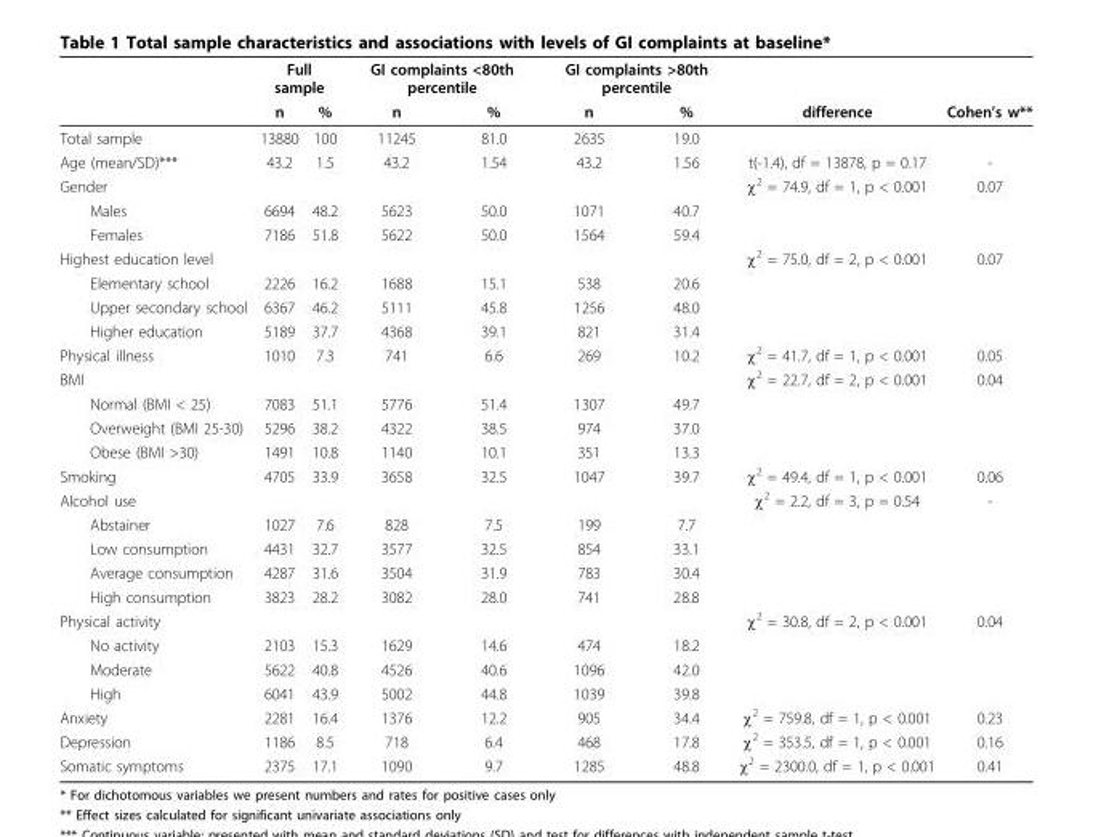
<table><thead><tr><td rowspan="2"></td><td colspan="2">Full sample</td><td colspan="2">GI complaints &lt;80th percentile</td><td colspan="2">GI complaints &gt;80th percentile</td><td rowspan="2">difference</td><td rowspan="2">Cohen’s w**</td></tr><tr><td>n</td><td>%</td><td>n</td><td>%</td><td>n</td><td>%</td></tr></thead><tbody><tr><td>Total sample</td><td>13880</td><td>100</td><td>11245</td><td>81.0</td><td>2635</td><td>19.0</td><td></td><td></td></tr><tr><td>Age (mean/SD)***</td><td>43.2</td><td>1.5</td><td>43.2</td><td>1.54</td><td>43.2</td><td>1.56</td><td>t(-1.4), df = 13878, p = 0.17</td><td>-</td></tr><tr><td>Gender</td><td></td><td></td><td></td><td></td><td></td><td></td><td>χ<sup>2</sup> = 74.9, df = 1, p &lt; 0.001</td><td>0.07</td></tr><tr><td>Males</td><td>6694</td><td>48.2</td><td>5623</td><td>50.0</td><td>1071</td><td>40.7</td><td></td><td></td></tr><tr><td>Females</td><td>7186</td><td>51.8</td><td>5622</td><td>50.0</td><td>1564</td><td>59.4</td><td></td><td></td></tr><tr><td>Highest education level</td><td></td><td></td><td></td><td></td><td></td><td></td><td>χ<sup>2</sup> = 75.0, df = 2, p &lt; 0.001</td><td>0.07</td></tr><tr><td>Elementary school</td><td>2226</td><td>16.2</td><td>1688</td><td>15.1</td><td>538</td><td>20.6</td><td></td><td></td></tr><tr><td>Upper secondary school</td><td>6367</td><td>46.2</td><td>5111</td><td>45.8</td><td>1256</td><td>48.0</td><td></td><td></td></tr><tr><td>Higher education</td><td>5189</td><td>37.7</td><td>4368</td><td>39.1</td><td>821</td><td>31.4</td><td></td><td></td></tr><tr><td>Physical illness</td><td>1010</td><td>7.3</td><td>741</td><td>6.6</td><td>269</td><td>10.2</td><td>χ<sup>2</sup> = 41.7, df = 1, p &lt; 0.001</td><td>0.05</td></tr><tr><td>BMI</td><td></td><td></td><td></td><td></td><td></td><td></td><td>χ<sup>2</sup> = 22.7, df = 2, p &lt; 0.001</td><td>0.04</td></tr><tr><td>Normal (BMI &lt; 25)</td><td>7083</td><td>51.1</td><td>5776</td><td>51.4</td><td>1307</td><td>49.7</td><td></td><td></td></tr><tr><td>Overweight (BMI 25-30)</td><td>5296</td><td>38.2</td><td>4322</td><td>38.5</td><td>974</td><td>37.0</td><td></td><td></td></tr><tr><td>Obese (BMI &gt;30)</td><td>1491</td><td>10.8</td><td>1140</td><td>10.1</td><td>351</td><td>13.3</td><td></td><td></td></tr><tr><td>Smoking</td><td>4705</td><td>33.9</td><td>3658</td><td>32.5</td><td>1047</td><td>39.7</td><td>χ<sup>2</sup> = 49.4, df = 1, p &lt; 0.001</td><td>0.06</td></tr><tr><td>Alcohol use</td><td></td><td></td><td></td><td></td><td></td><td></td><td>χ<sup>2</sup> = 2.2, df = 3, p = 0.54</td><td>-</td></tr><tr><td>Abstainer</td><td>1027</td><td>7.6</td><td>828</td><td>7.5</td><td>199</td><td>7.7</td><td></td><td></td></tr><tr><td>Low consumption</td><td>4431</td><td>32.7</td><td>3577</td><td>32.5</td><td>854</td><td>33.1</td><td></td><td></td></tr><tr><td>Average consumption</td><td>4287</td><td>31.6</td><td>3504</td><td>31.9</td><td>783</td><td>30.4</td><td></td><td></td></tr><tr><td>High consumption</td><td>3823</td><td>28.2</td><td>3082</td><td>28.0</td><td>741</td><td>28.8</td><td></td><td></td></tr><tr><td>Physical activity</td><td></td><td></td><td></td><td></td><td></td><td></td><td>χ<sup>2</sup> = 30.8, df = 2, p &lt; 0.001</td><td>0.04</td></tr><tr><td>No activity</td><td>2103</td><td>15.3</td><td>1629</td><td>14.6</td><td>474</td><td>18.2</td><td></td><td></td></tr><tr><td>Moderate</td><td>5622</td><td>40.8</td><td>4526</td><td>40.6</td><td>1096</td><td>42.0</td><td></td><td></td></tr><tr><td>High</td><td>6041</td><td>43.9</td><td>5002</td><td>44.8</td><td>1039</td><td>39.8</td><td></td><td></td></tr><tr><td>Anxiety</td><td>2281</td><td>16.4</td><td>1376</td><td>12.2</td><td>905</td><td>34.4</td><td>χ<sup>2</sup> = 759.8, df = 1, p &lt; 0.001</td><td>0.23</td></tr><tr><td>Depression</td><td>1186</td><td>8.5</td><td>718</td><td>6.4</td><td>468</td><td>17.8</td><td>χ<sup>2</sup> = 353.5, df = 1, p &lt; 0.001</td><td>0.16</td></tr><tr><td>Somatic symptoms</td><td>2375</td><td>17.1</td><td>1090</td><td>9.7</td><td>1285</td><td>48.8</td><td>χ<sup>2</sup> = 2300.0, df = 1, p &lt; 0.001</td><td>0.41</td></tr></tbody></table>